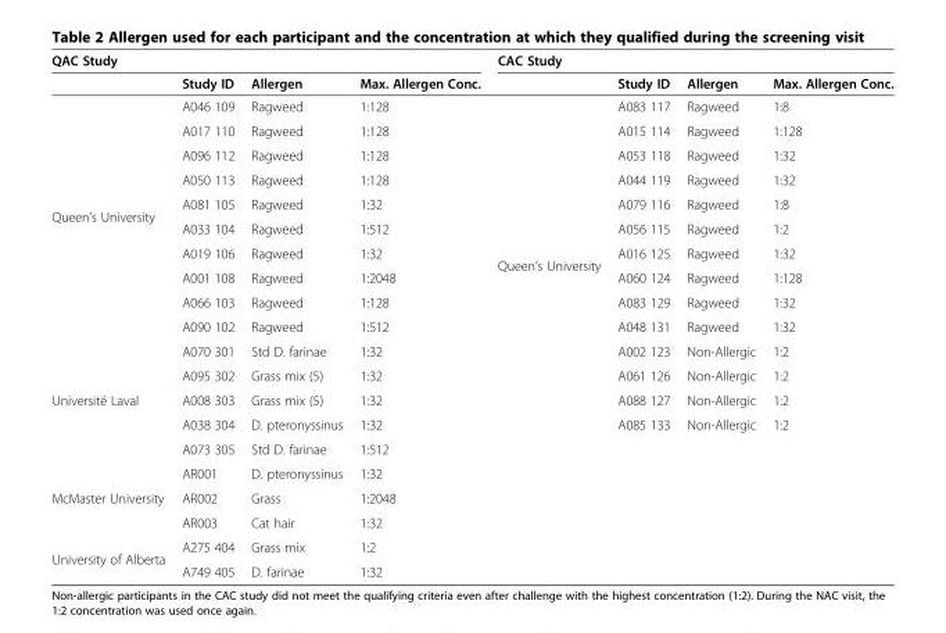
<table><thead><tr><td colspan="4">QAC Study</td><td colspan="4">CAC Study</td></tr><tr><td></td><td>Study ID</td><td>Allergen</td><td>Max. Allergen Conc.</td><td></td><td>Study ID</td><td>Allergen</td><td>Max. Allergen Conc.</td></tr></thead><tbody><tr><td rowspan="10">Queen’s University</td><td>A046 109</td><td>Ragweed</td><td>1:128</td><td rowspan="14">Queen’s University</td><td>A083 117</td><td>Ragweed</td><td>1:8</td></tr><tr><td>A017 110</td><td>Ragweed</td><td>1:128</td><td>A015 114</td><td>Ragweed</td><td>1:128</td></tr><tr><td>A096 112</td><td>Ragweed</td><td>1:128</td><td>A053 118</td><td>Ragweed</td><td>1:32</td></tr><tr><td>A050 113</td><td>Ragweed</td><td>1:128</td><td>A044 119</td><td>Ragweed</td><td>1:32</td></tr><tr><td>A081 105</td><td>Ragweed</td><td>1:32</td><td>A079 116</td><td>Ragweed</td><td>1:8</td></tr><tr><td>A033 104</td><td>Ragweed</td><td>1:512</td><td>A056 115</td><td>Ragweed</td><td>1:2</td></tr><tr><td>A019 106</td><td>Ragweed</td><td>1:32</td><td>A016 125</td><td>Ragweed</td><td>1:32</td></tr><tr><td>A001 108</td><td>Ragweed</td><td>1:2048</td><td>A060 124</td><td>Ragweed</td><td>1:128</td></tr><tr><td>A066 103</td><td>Ragweed</td><td>1:128</td><td>A083 129</td><td>Ragweed</td><td>1:32</td></tr><tr><td>A090 102</td><td>Ragweed</td><td>1:512</td><td>A048 131</td><td>Ragweed</td><td>1:32</td></tr><tr><td rowspan="5">Université Laval</td><td>A070 301</td><td>Std D. farinae</td><td>1:32</td><td>A002 123</td><td>Non-Allergic</td><td>1:2</td></tr><tr><td>A095 302</td><td>Grass mix (5)</td><td>1:32</td><td>A061 126</td><td>Non-Allergic</td><td>1:2</td></tr><tr><td>A008 303</td><td>Grass mix (5)</td><td>1:32</td><td>A088 127</td><td>Non-Allergic</td><td>1:2</td></tr><tr><td>A038 304</td><td>D. pteronyssinus</td><td>1:32</td><td>A085 133</td><td>Non-Allergic</td><td>1:2</td></tr><tr><td>A073 305</td><td>Std D. farinae</td><td>1:512</td><td></td><td></td><td></td><td></td></tr><tr><td rowspan="3">McMaster University</td><td>AR001</td><td>D. pteronyssinus</td><td>1:32</td><td></td><td></td><td></td><td></td></tr><tr><td>AR002</td><td>Grass</td><td>1:2048</td><td></td><td></td><td></td><td></td></tr><tr><td>AR003</td><td>Cat hair</td><td>1:32</td><td></td><td></td><td></td><td></td></tr><tr><td rowspan="2">University of Alberta</td><td>A275 404</td><td>Grass mix</td><td>1:2</td><td></td><td></td><td></td><td></td></tr><tr><td>A749 405</td><td>D. farinae</td><td>1:32</td><td></td><td></td><td></td><td></td></tr></tbody></table>